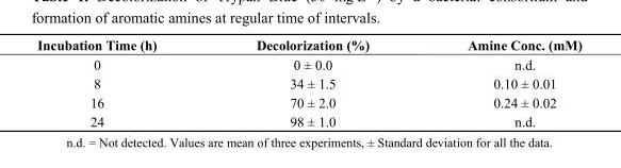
<table><thead><tr><td>Incubation Time (h)</td><td>Decolorization (%)</td><td>Amine Conc. (mM)</td></tr></thead><tbody><tr><td>0</td><td>0 ± 0.0</td><td>n.d.</td></tr><tr><td>8</td><td>34 ± 1.5</td><td>0.10 ± 0.01</td></tr><tr><td>16</td><td>70 ± 2.0</td><td>0.24 ± 0.02</td></tr><tr><td>24</td><td>98 ± 1.0</td><td>n.d.</td></tr></tbody></table>